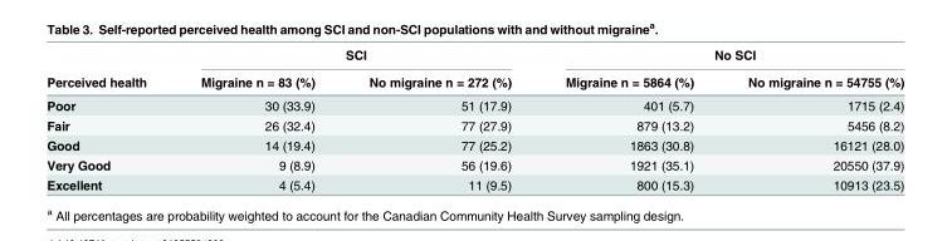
<table><thead><tr><td rowspan="2">Perceived health</td><td colspan="2">SCI</td><td colspan="2">No SCI</td></tr><tr><td>Migraine n = 83 (%)</td><td>No migraine n = 272 (%)</td><td>Migraine n = 5864 (%)</td><td>No migraine n = 54755 (%)</td></tr></thead><tbody><tr><td>Poor</td><td>30 (33.9)</td><td>51 (17.9)</td><td>401 (5.7)</td><td>1715 (2.4)</td></tr><tr><td>Fair</td><td>26 (32.4)</td><td>77 (27.9)</td><td>879 (13.2)</td><td>5456 (8.2)</td></tr><tr><td>Good</td><td>14 (19.4)</td><td>77 (25.2)</td><td>1863 (30.8)</td><td>16121 (28.0)</td></tr><tr><td>Very Good</td><td>9 (8.9)</td><td>56 (19.6)</td><td>1921 (35.1)</td><td>20550 (37.9)</td></tr><tr><td>Excellent</td><td>4 (5.4)</td><td>11 (9.5)</td><td>800 (15.3)</td><td>10913 (23.5)</td></tr></tbody></table>